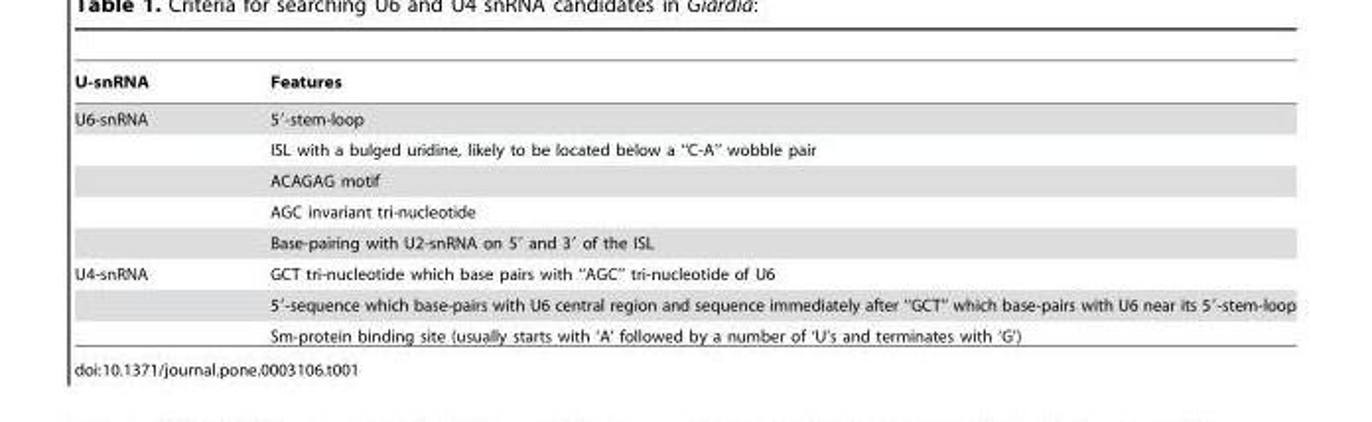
<table><thead><tr><td>U-snRNA</td><td>Features</td></tr></thead><tbody><tr><td rowspan="5">U6-snRNA</td><td>5′-stem-loop</td></tr><tr><td>ISL with a bulged uridine, likely to be located below a ‘‘C-A’’ wobble pair</td></tr><tr><td>ACAGAG motif</td></tr><tr><td>AGC invariant tri-nucleotide</td></tr><tr><td>Base-pairing with U2-snRNA on 5′ and 3′ of the ISL</td></tr><tr><td rowspan="3">U4-snRNA</td><td>GCT tri-nucleotide which base pairs with ‘‘AGC’’ tri-nucleotide of U6</td></tr><tr><td>59-sequence which base-pairs with U6 central region and sequence immediately after ‘‘GCT’’ which base-pairs with U6 near its 59-stem-loop</td></tr><tr><td>Sm-protein binding site (usually starts with ‘A’ followed by a number of ‘U’s and terminates with ‘G’)</td></tr></tbody></table>